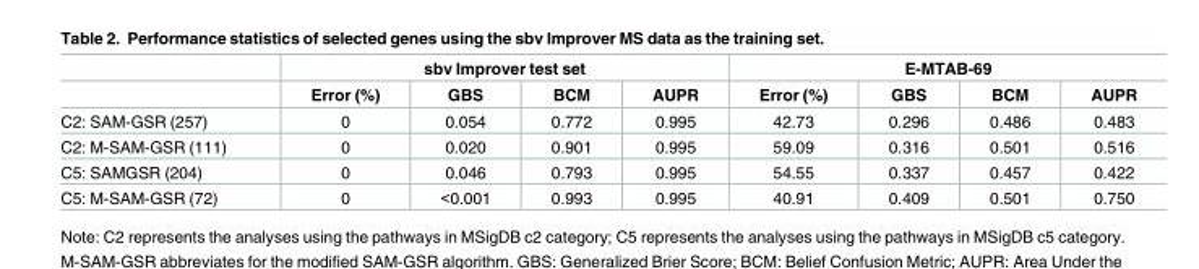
<table><thead><tr><td rowspan="2"></td><td colspan="4">sbv Improver test set</td><td colspan="4">E-MTAB-69</td></tr><tr><td>Error (%)</td><td>GBS</td><td>BCM</td><td>AUPR</td><td>Error (%)</td><td>GBS</td><td>BCM</td><td>AUPR</td></tr></thead><tbody><tr><td>C2: SAM-GSR (257)</td><td>0</td><td>0.054</td><td>0.772</td><td>0.995</td><td>42.73</td><td>0.296</td><td>0.486</td><td>0.483</td></tr><tr><td>C2: M-SAM-GSR (111)</td><td>0</td><td>0.020</td><td>0.901</td><td>0.995</td><td>59.09</td><td>0.316</td><td>0.501</td><td>0.516</td></tr><tr><td>C5: SAMGSR (204)</td><td>0</td><td>0.046</td><td>0.793</td><td>0.995</td><td>54.55</td><td>0.337</td><td>0.457</td><td>0.422</td></tr><tr><td>C5: M-SAM-GSR (72)</td><td>0</td><td>&lt;0.001</td><td>0.993</td><td>0.995</td><td>40.91</td><td>0.409</td><td>0.501</td><td>0.750</td></tr></tbody></table>